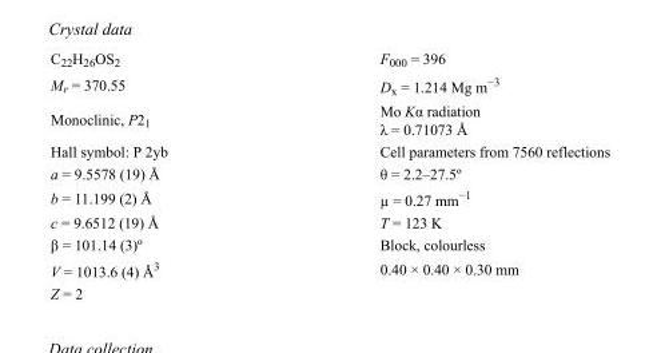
<table><tbody><tr><td>C<sub>22</sub>H<sub>26</sub>OS<sub>2</sub></td><td>F000 = 396</td></tr><tr><td>M<sub>r</sub> = 370.55</td><td>D<sub>x</sub> = 1.214 Mg m<sup>−3</sup></td></tr><tr><td>Monoclinic, P2<sub>1</sub></td><td>Mo Kα radiation λ = 0.71073 Å</td></tr><tr><td>Hall symbol: P 2yb</td><td>Cell parameters from 7560 reflections</td></tr><tr><td>a = 9.5578 (19) Å</td><td>θ = 2.2–27.5º</td></tr><tr><td>b = 11.199 (2) Å</td><td>µ = 0.27 mm<sup>−1</sup></td></tr><tr><td>c = 9.6512 (19) Å</td><td>T = 123 K</td></tr><tr><td>β = 101.14 (3)º</td><td>Block, colourless</td></tr><tr><td>V = 1013.6 (4) Å<sup>3</sup></td><td>0.40 × 0.40 × 0.30 mm</td></tr><tr><td>Z = 2</td><td></td></tr></tbody></table>